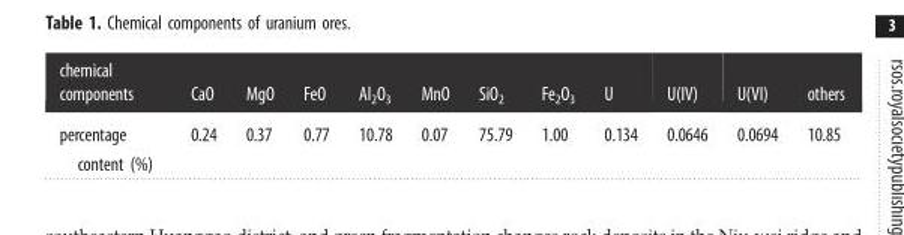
<table><thead><tr><td>chemical components</td><td>CaO</td><td>MgO</td><td>FeO</td><td>Al<sub>2</sub>O<sub>3</sub></td><td>MnO</td><td>SiO<sub>2</sub></td><td>Fe<sub>2</sub>O<sub>3</sub></td><td>U</td><td>U(IV)</td><td>U(VI)</td><td>others</td></tr></thead><tbody><tr><td>percentage content (%)</td><td>0.24</td><td>0.37</td><td>0.77</td><td>10.78</td><td>0.07</td><td>75.79</td><td>1.00</td><td>0.134</td><td>0.0646</td><td>0.0694</td><td>10.85</td></tr></tbody></table>